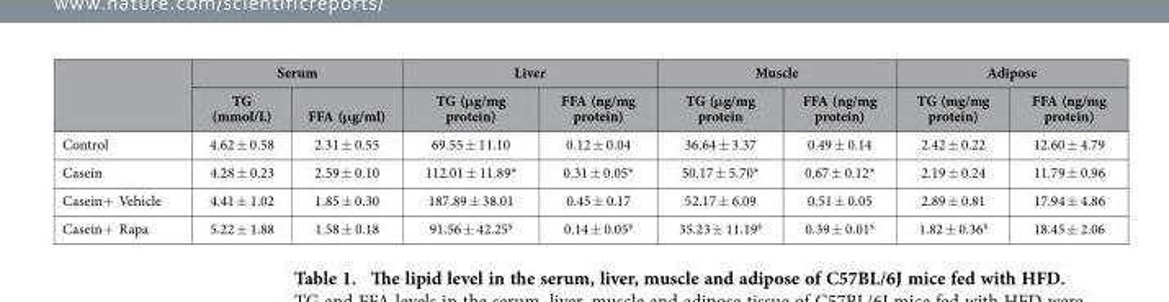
<table><thead><tr><td rowspan="2"></td><td colspan="2">Serum</td><td colspan="2">Liver</td><td colspan="2">Muscle</td><td colspan="2">Adipose</td></tr><tr><td>TG (mmol/L)</td><td>FFA (μg/ml)</td><td>TG (μg/mg protein)</td><td>FFA (ng/mg protein)</td><td>TG (μg/mg protein</td><td>FFA (ng/mg protein)</td><td>TG (mg/mg protein)</td><td>FFA (ng/mg protein)</td></tr></thead><tbody><tr><td>Control</td><td>4.62 ± 0.58</td><td>2.31 ± 0.55</td><td>69.55 ± 11.10</td><td>0.12 ± 0.04</td><td>36.64 ± 3.37</td><td>0.49 ± 0.14</td><td>2.42 ± 0.22</td><td>12.60 ± 4.79</td></tr><tr><td>Casein</td><td>4.28 ± 0.23</td><td>2.59 ± 0.10</td><td>112.01 ± 11.89*</td><td>0.31 ± 0.05*</td><td>50.17 ± 5.70*</td><td>0.67 ± 0.12*</td><td>2.19 ± 0.24</td><td>11.79 ± 0.96</td></tr><tr><td>Casein+ Vehicle</td><td>4.41 ± 1.02</td><td>1.85 ± 0.30</td><td>187.89 ± 38.01</td><td>0.45 ± 0.17</td><td>52.17 ± 6.09</td><td>0.51 ± 0.05</td><td>2.89 ± 0.81</td><td>17.94 ± 4.86</td></tr><tr><td>Casein+ Rapa</td><td>5.22 ± 1.88</td><td>1.58 ± 0.18</td><td>91.56 ± 42.25<sup>§</sup></td><td>0.14 ± 0.05<sup>§</sup></td><td>35.23 ± 11.19<sup>§</sup></td><td>0.39 ± 0.01<sup>§</sup></td><td>1.82 ± 0.36<sup>§</sup></td><td>18.45 ± 2.06</td></tr></tbody></table>